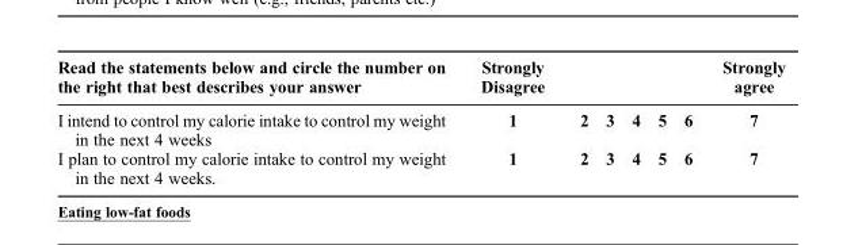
<table><thead><tr><td>Read the statements below and circle the number on the right that best describes your answer</td><td>Strongly Disagree</td><td></td><td></td><td></td><td></td><td></td><td>Strongly agree</td></tr></thead><tbody><tr><td>I intend to control my calorie intake to control my weight in the next 4 weeks</td><td>1</td><td>2</td><td>3</td><td>4</td><td>5</td><td>6</td><td>7</td></tr><tr><td>I plan to control my calorie intake to control my weight in the next 4 weeks.</td><td>1</td><td>2</td><td>3</td><td>4</td><td>5</td><td>6</td><td>7</td></tr></tbody></table>